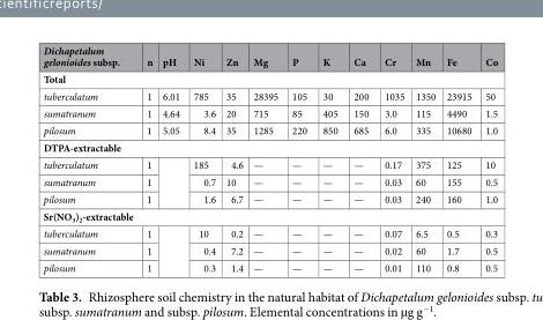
<table><thead><tr><td>Dichapetalum gelonioides subsp.</td><td>n</td><td>pH</td><td>Ni</td><td>Zn</td><td>Mg</td><td>P</td><td>K</td><td>Ca</td><td>Cr</td><td>Mn</td><td>Fe</td><td>Co</td></tr></thead><tbody><tr><td colspan="13">Total</td></tr><tr><td>tuberculatum</td><td>1</td><td>6.01</td><td>785</td><td>35</td><td>28395</td><td>105</td><td>30</td><td>200</td><td>1035</td><td>1350</td><td>23915</td><td>50</td></tr><tr><td>sumatranum</td><td>1</td><td>4.64</td><td>3.6</td><td>20</td><td>715</td><td>85</td><td>405</td><td>150</td><td>3.0</td><td>115</td><td>4490</td><td>1.5</td></tr><tr><td>pilosum</td><td>1</td><td>5.05</td><td>8.4</td><td>35</td><td>1285</td><td>220</td><td>850</td><td>685</td><td>6.0</td><td>335</td><td>10680</td><td>1.0</td></tr><tr><td colspan="13">DTPA-extractable</td></tr><tr><td>tuberculatum</td><td>1</td><td rowspan="3"></td><td>185</td><td>4.6</td><td>—</td><td>—</td><td>—</td><td>—</td><td>0.17</td><td>375</td><td>125</td><td>10</td></tr><tr><td>sumatranum</td><td>1</td><td>0.7</td><td>10</td><td>—</td><td>—</td><td>—</td><td>—</td><td>0.03</td><td>60</td><td>155</td><td>0.5</td></tr><tr><td>pilosum</td><td>1</td><td>1.6</td><td>6.7</td><td>—</td><td>—</td><td>—</td><td>—</td><td>0.03</td><td>240</td><td>160</td><td>1.0</td></tr><tr><td colspan="13">Sr(NO<sub>3</sub>)<sub>2</sub>-extractable</td></tr><tr><td>tuberculatum</td><td>1</td><td rowspan="3"></td><td>10</td><td>0.2</td><td>—</td><td>—</td><td>—</td><td>—</td><td>0.07</td><td>6.5</td><td>0.5</td><td>0.3</td></tr><tr><td>sumatranum</td><td>1</td><td>0.4</td><td>7.2</td><td>—</td><td>—</td><td>—</td><td>—</td><td>0.02</td><td>60</td><td>1.7</td><td>0.5</td></tr><tr><td>pilosum</td><td>1</td><td>0.3</td><td>1.4</td><td>—</td><td>—</td><td>—</td><td>—</td><td>0.01</td><td>110</td><td>0.8</td><td>0.5</td></tr></tbody></table>